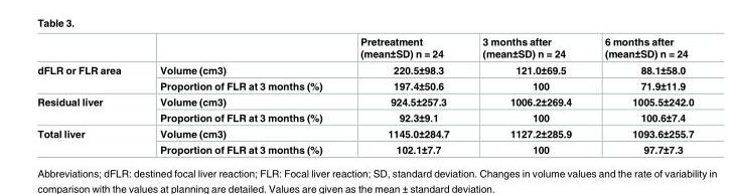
<table><thead><tr><td></td><td></td><td>Pretreatment (mean±SD) n = 24</td><td>3 months after (mean±SD) n = 24</td><td>6 months after (mean±SD) n = 24</td></tr></thead><tbody><tr><td rowspan="2">dFLR or FLR area</td><td>Volume (cm3)</td><td>220.5±98.3</td><td>121.0±69.5</td><td>88.1±58.0</td></tr><tr><td>Proportion of FLR at 3 months (%)</td><td>197.4±50.6</td><td>100</td><td>71.9±11.9</td></tr><tr><td rowspan="2">Residual liver</td><td>Volume (cm3)</td><td>924.5±257.3</td><td>1006.2±269.4</td><td>1005.5±242.0</td></tr><tr><td>Proportion of FLR at 3 months (%)</td><td>92.3±9.1</td><td>100</td><td>100.6±7.4</td></tr><tr><td rowspan="2">Total liver</td><td>Volume (cm3)</td><td>1145.0±284.7</td><td>1127.2±285.9</td><td>1093.6±255.7</td></tr><tr><td>Proportion of FLR at 3 months (%)</td><td>102.1±7.7</td><td>100</td><td>97.7±7.3</td></tr></tbody></table>